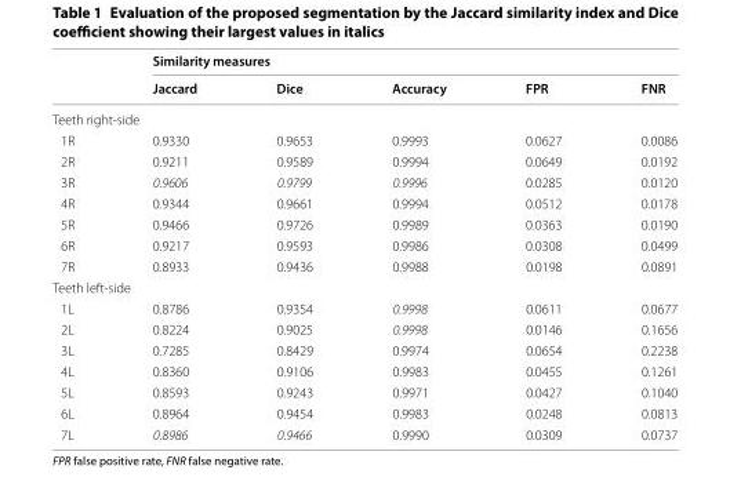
<table><thead><tr><td rowspan="2"></td><td colspan="5">Similarity measures</td></tr><tr><td>Jaccard</td><td>Dice</td><td>Accuracy</td><td>FPR</td><td>FNR</td></tr></thead><tbody><tr><td colspan="6">Teeth right-side</td></tr><tr><td>1R</td><td>0.9330</td><td>0.9653</td><td>0.9993</td><td>0.0627</td><td>0.0086</td></tr><tr><td>2R</td><td>0.9211</td><td>0.9589</td><td>0.9994</td><td>0.0649</td><td>0.0192</td></tr><tr><td>3R</td><td>0.9606</td><td>0.9799</td><td>0.9996</td><td>0.0285</td><td>0.0120</td></tr><tr><td>4R</td><td>0.9344</td><td>0.9661</td><td>0.9994</td><td>0.0512</td><td>0.0178</td></tr><tr><td>5R</td><td>0.9466</td><td>0.9726</td><td>0.9989</td><td>0.0363</td><td>0.0190</td></tr><tr><td>6R</td><td>0.9217</td><td>0.9593</td><td>0.9986</td><td>0.0308</td><td>0.0499</td></tr><tr><td>7R</td><td>0.8933</td><td>0.9436</td><td>0.9988</td><td>0.0198</td><td>0.0891</td></tr><tr><td colspan="6">Teeth left-side</td></tr><tr><td>1L</td><td>0.8786</td><td>0.9354</td><td>0.9998</td><td>0.0611</td><td>0.0677</td></tr><tr><td>2L</td><td>0.8224</td><td>0.9025</td><td>0.9998</td><td>0.0146</td><td>0.1656</td></tr><tr><td>3L</td><td>0.7285</td><td>0.8429</td><td>0.9974</td><td>0.0654</td><td>0.2238</td></tr><tr><td>4L</td><td>0.8360</td><td>0.9106</td><td>0.9983</td><td>0.0455</td><td>0.1261</td></tr><tr><td>5L</td><td>0.8593</td><td>0.9243</td><td>0.9971</td><td>0.0427</td><td>0.1040</td></tr><tr><td>6L</td><td>0.8964</td><td>0.9454</td><td>0.9983</td><td>0.0248</td><td>0.0813</td></tr><tr><td>7L</td><td>0.8986</td><td>0.9466</td><td>0.9990</td><td>0.0309</td><td>0.0737</td></tr></tbody></table>